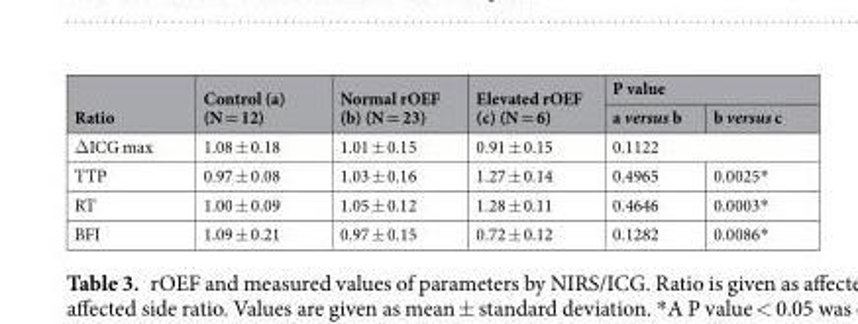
<table><thead><tr><td rowspan="2">Ratio</td><td rowspan="2">Control (a) (N = 12)</td><td rowspan="2">Normal rOEF (b) (N = 23)</td><td rowspan="2">Elevated rOEF (c) (N = 6)</td><td colspan="2">P value</td></tr><tr><td>a versus b</td><td>b versus c</td></tr></thead><tbody><tr><td>ΔICG max</td><td>1.08 ± 0.18</td><td>1.01 ± 0.15</td><td>0.91 ± 0.15</td><td colspan="2">0.1122</td></tr><tr><td>TTP</td><td>0.97 ± 0.08</td><td>1.03 ± 0.16</td><td>1.27 ± 0.14</td><td>0.4965</td><td>0.0025*</td></tr><tr><td>RT</td><td>1.00 ± 0.09</td><td>1.05 ± 0.12</td><td>1.28 ± 0.11</td><td>0.4646</td><td>0.0003*</td></tr><tr><td>BFI</td><td>1.09 ± 0.21</td><td>0.97 ± 0.15</td><td>0.72 ± 0.12</td><td>0.1282</td><td>0.0086*</td></tr></tbody></table>